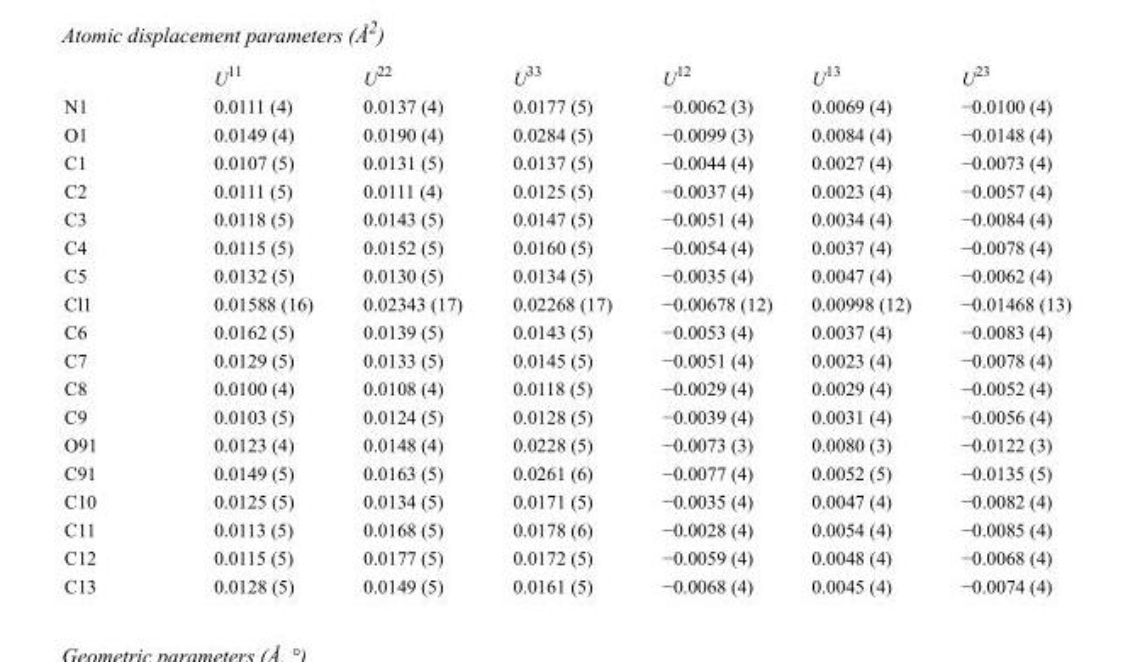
<table><thead><tr><td></td><td>U<sup>11</sup></td><td>U<sup>22</sup></td><td>U<sup>33</sup></td><td>U<sup>12</sup></td><td>U<sup>13</sup></td><td>U<sup>23</sup></td></tr></thead><tbody><tr><td>N1</td><td>0.0111 (4)</td><td>0.0137 (4)</td><td>0.0177 (5)</td><td>−0.0062 (3)</td><td>0.0069 (4)</td><td>−0.0100 (4)</td></tr><tr><td>O1</td><td>0.0149 (4)</td><td>0.0190 (4)</td><td>0.0284 (5)</td><td>−0.0099 (3)</td><td>0.0084 (4)</td><td>−0.0148 (4)</td></tr><tr><td>C1</td><td>0.0107 (5)</td><td>0.0131 (5)</td><td>0.0137 (5)</td><td>−0.0044 (4)</td><td>0.0027 (4)</td><td>−0.0073 (4)</td></tr><tr><td>C2</td><td>0.0111 (5)</td><td>0.0111 (4)</td><td>0.0125 (5)</td><td>−0.0037 (4)</td><td>0.0023 (4)</td><td>−0.0057 (4)</td></tr><tr><td>C3</td><td>0.0118 (5)</td><td>0.0143 (5)</td><td>0.0147 (5)</td><td>−0.0051 (4)</td><td>0.0034 (4)</td><td>−0.0084 (4)</td></tr><tr><td>C4</td><td>0.0115 (5)</td><td>0.0152 (5)</td><td>0.0160 (5)</td><td>−0.0054 (4)</td><td>0.0037 (4)</td><td>−0.0078 (4)</td></tr><tr><td>C5</td><td>0.0132 (5)</td><td>0.0130 (5)</td><td>0.0134 (5)</td><td>−0.0035 (4)</td><td>0.0047 (4)</td><td>−0.0062 (4)</td></tr><tr><td>Cl1</td><td>0.01588 (16)</td><td>0.02343 (17)</td><td>0.02268 (17)</td><td>−0.00678 (12)</td><td>0.00998 (12)</td><td>−0.01468 (13)</td></tr><tr><td>C6</td><td>0.0162 (5)</td><td>0.0139 (5)</td><td>0.0143 (5)</td><td>−0.0053 (4)</td><td>0.0037 (4)</td><td>−0.0083 (4)</td></tr><tr><td>C7</td><td>0.0129 (5)</td><td>0.0133 (5)</td><td>0.0145 (5)</td><td>−0.0051 (4)</td><td>0.0023 (4)</td><td>−0.0078 (4)</td></tr><tr><td>C8</td><td>0.0100 (4)</td><td>0.0108 (4)</td><td>0.0118 (5)</td><td>−0.0029 (4)</td><td>0.0029 (4)</td><td>−0.0052 (4)</td></tr><tr><td>C9</td><td>0.0103 (5)</td><td>0.0124 (5)</td><td>0.0128 (5)</td><td>−0.0039 (4)</td><td>0.0031 (4)</td><td>−0.0056 (4)</td></tr><tr><td>O91</td><td>0.0123 (4)</td><td>0.0148 (4)</td><td>0.0228 (5)</td><td>−0.0073 (3)</td><td>0.0080 (3)</td><td>−0.0122 (3)</td></tr><tr><td>C91</td><td>0.0149 (5)</td><td>0.0163 (5)</td><td>0.0261 (6)</td><td>−0.0077 (4)</td><td>0.0052 (5)</td><td>−0.0135 (5)</td></tr><tr><td>C10</td><td>0.0125 (5)</td><td>0.0134 (5)</td><td>0.0171 (5)</td><td>−0.0035 (4)</td><td>0.0047 (4)</td><td>−0.0082 (4)</td></tr><tr><td>C11</td><td>0.0113 (5)</td><td>0.0168 (5)</td><td>0.0178 (6)</td><td>−0.0028 (4)</td><td>0.0054 (4)</td><td>−0.0085 (4)</td></tr><tr><td>C12</td><td>0.0115 (5)</td><td>0.0177 (5)</td><td>0.0172 (5)</td><td>−0.0059 (4)</td><td>0.0048 (4)</td><td>−0.0068 (4)</td></tr><tr><td>C13</td><td>0.0128 (5)</td><td>0.0149 (5)</td><td>0.0161 (5)</td><td>−0.0068 (4)</td><td>0.0045 (4)</td><td>−0.0074 (4)</td></tr></tbody></table>